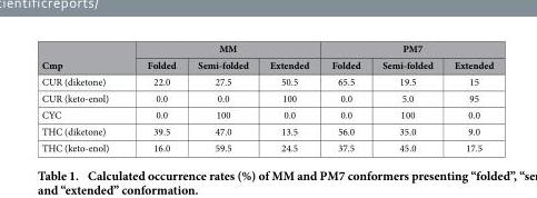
<table><thead><tr><td rowspan="2">Cmp</td><td colspan="3">MM</td><td colspan="3">PM7</td></tr><tr><td>Folded</td><td>Semi-folded</td><td>Extended</td><td>Folded</td><td>Semi-folded</td><td>Extended</td></tr></thead><tbody><tr><td>CUR (diketone)</td><td>22.0</td><td>27.5</td><td>50.5</td><td>65.5</td><td>19.5</td><td>15</td></tr><tr><td>CUR (keto-enol)</td><td>0.0</td><td>0.0</td><td>100</td><td>0.0</td><td>5.0</td><td>95</td></tr><tr><td>CYC</td><td>0.0</td><td>100</td><td>0.0</td><td>0.0</td><td>100</td><td>0.0</td></tr><tr><td>THC (diketone)</td><td>39.5</td><td>47.0</td><td>13.5</td><td>56.0</td><td>35.0</td><td>9.0</td></tr><tr><td>THC (keto-enol)</td><td>16.0</td><td>59.5</td><td>24.5</td><td>37.5</td><td>45.0</td><td>17.5</td></tr></tbody></table>